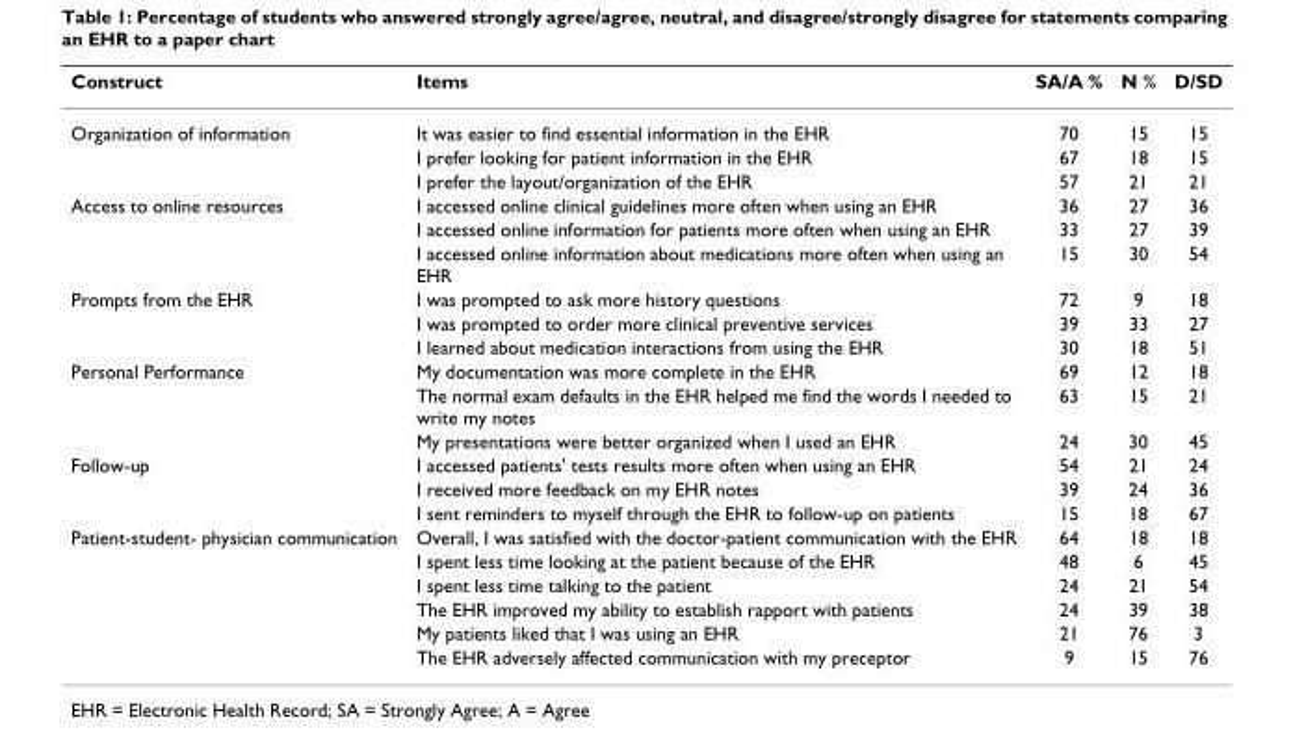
<table><thead><tr><td>Construct</td><td>Items</td><td>SA/A %</td><td>N %</td><td>D/SD</td></tr></thead><tbody><tr><td rowspan="3">Organization of information</td><td>It was easier to find essential information in the EHR</td><td>70</td><td>15</td><td>15</td></tr><tr><td>I prefer looking for patient information in the EHR</td><td>67</td><td>18</td><td>15</td></tr><tr><td>I prefer the layout/organization of the EHR</td><td>57</td><td>21</td><td>21</td></tr><tr><td rowspan="3">Access to online resources</td><td>I accessed online clinical guidelines more often when using an EHR</td><td>36</td><td>27</td><td>36</td></tr><tr><td>I accessed online information for patients more often when using an EHR</td><td>33</td><td>27</td><td>39</td></tr><tr><td>I accessed online information about medications more often when using an EHR</td><td>15</td><td>30</td><td>54</td></tr><tr><td rowspan="3">Prompts from the EHR</td><td>I was prompted to ask more history questions</td><td>72</td><td>9</td><td>18</td></tr><tr><td>I was prompted to order more clinical preventive services</td><td>39</td><td>33</td><td>27</td></tr><tr><td>I learned about medication interactions from using the EHR</td><td>30</td><td>18</td><td>51</td></tr><tr><td rowspan="3">Personal Performance</td><td>My documentation was more complete in the EHR</td><td>69</td><td>12</td><td>18</td></tr><tr><td>The normal exam defaults in the EHR helped me find the words I needed to write my notes</td><td>63</td><td>15</td><td>21</td></tr><tr><td>My presentations were better organized when I used an EHR</td><td>24</td><td>30</td><td>45</td></tr><tr><td rowspan="3">Follow-up</td><td>I accessed patients&#x27; tests results more often when using an EHR</td><td>54</td><td>21</td><td>24</td></tr><tr><td>I received more feedback on my EHR notes</td><td>39</td><td>24</td><td>36</td></tr><tr><td>I sent reminders to myself through the EHR to follow-up on patients</td><td>15</td><td>18</td><td>67</td></tr><tr><td rowspan="6">Patient-student- physician communication</td><td>Overall, I was satisfied with the doctor-patient communication with the EHR</td><td>64</td><td>18</td><td>18</td></tr><tr><td>I spent less time looking at the patient because of the EHR</td><td>48</td><td>6</td><td>45</td></tr><tr><td>I spent less time talking to the patient</td><td>24</td><td>21</td><td>54</td></tr><tr><td>The EHR improved my ability to establish rapport with patients</td><td>24</td><td>39</td><td>38</td></tr><tr><td>My patients liked that I was using an EHR</td><td>21</td><td>76</td><td>3</td></tr><tr><td>The EHR adversely affected communication with my preceptor</td><td>9</td><td>15</td><td>76</td></tr></tbody></table>